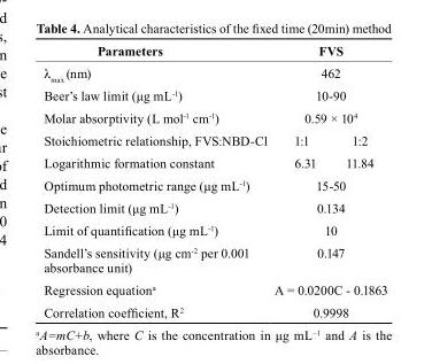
<table><thead><tr><td>Parameters</td><td colspan="2">FVs</td></tr></thead><tbody><tr><td>λ<sub>max</sub> (nm)</td><td colspan="2">462</td></tr><tr><td>Beer’s law limit (μg mL<sup>-1</sup>)</td><td colspan="2">10-90</td></tr><tr><td>Molar absorptivity (L mol<sup>-1</sup> cm<sup>-1</sup>)</td><td colspan="2">0.59 × 10<sup>4</sup></td></tr><tr><td>Stoichiometric relationship, FVS:NBD-Cl</td><td>1:1</td><td>1:2</td></tr><tr><td>Logarithmic formation constant</td><td>6.31</td><td>11.84</td></tr><tr><td>Optimum photometric range (μg mL<sup>-1</sup>)</td><td colspan="2">15-50</td></tr><tr><td>Detection limit (μg mL<sup>-1</sup>)</td><td colspan="2">0.134</td></tr><tr><td>Limit of quantification (μg mL<sup>-1</sup>)</td><td colspan="2">10</td></tr><tr><td>Sandell’s sensitivity (μg cm<sup>-2</sup> per 0.001 absorbance unit)</td><td colspan="2">0.147</td></tr><tr><td>Regression equation<sup>a</sup></td><td colspan="2">A = 0.0200C - 0.1863</td></tr><tr><td>Correlation coefficient, R<sup>2</sup></td><td colspan="2">0.9998</td></tr></tbody></table>